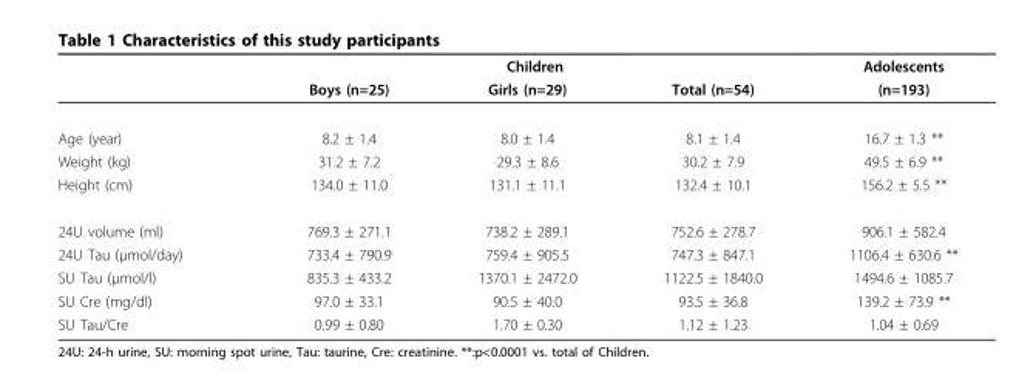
<table><thead><tr><td rowspan="2"></td><td colspan="3">Children</td><td rowspan="2">Adolescents (n=193)</td></tr><tr><td>Boys (n=25)</td><td>Girls (n=29)</td><td>Total (n=54)</td></tr></thead><tbody><tr><td>Age (year)</td><td>8.2 ± 1.4</td><td>8.0 ± 1.4</td><td>8.1 ± 1.4</td><td>16.7 ± 1.3 **</td></tr><tr><td>Weight (kg)</td><td>31.2 ± 7.2</td><td>29.3 ± 8.6</td><td>30.2 ± 7.9</td><td>49.5 ± 6.9 **</td></tr><tr><td>Height (cm)</td><td>134.0 ± 11.0</td><td>131.1 ± 11.1</td><td>132.4 ± 10.1</td><td>156.2 ± 5.5 **</td></tr><tr><td>24U volume (ml)</td><td>769.3 ± 271.1</td><td>738.2 ± 289.1</td><td>752.6 ± 278.7</td><td>906.1 ± 582.4</td></tr><tr><td>24U Tau (μmol/day)</td><td>733.4 ± 790.9</td><td>759.4 ± 905.5</td><td>747.3 ± 847.1</td><td>1106.4 ± 630.6 **</td></tr><tr><td>SU Tau (μmol/l)</td><td>835.3 ± 433.2</td><td>1370.1 ± 2472.0</td><td>1122.5 ± 1840.0</td><td>1494.6 ± 1085.7</td></tr><tr><td>SU Cre (mg/dl)</td><td>97.0 ± 33.1</td><td>90.5 ± 40.0</td><td>93.5 ± 36.8</td><td>139.2 ± 73.9 **</td></tr><tr><td>SU Tau/Cre</td><td>0.99 ± 0.80</td><td>1.70 ± 0.30</td><td>1.12 ± 1.23</td><td>1.04 ± 0.69</td></tr></tbody></table>